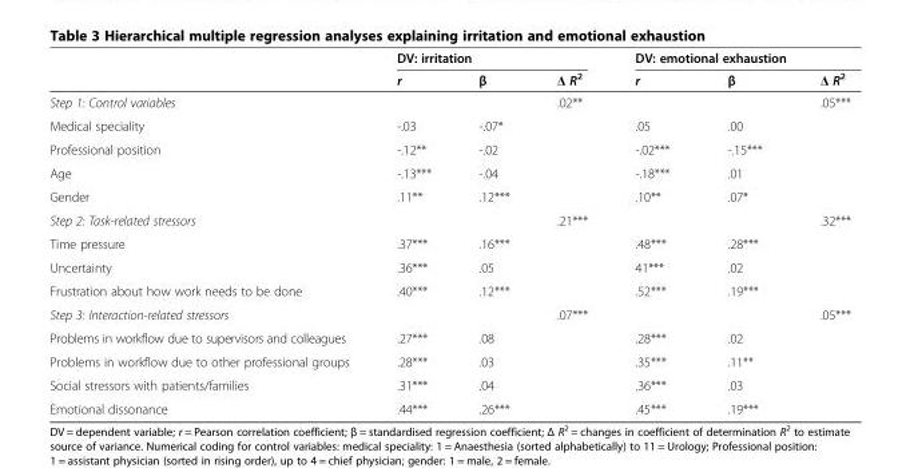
<table><thead><tr><td rowspan="2"></td><td colspan="3">DV: irritation</td><td colspan="3">DV: emotional exhaustion</td></tr><tr><td>r</td><td>β</td><td>Δ R<sup>2</sup></td><td>r</td><td>β</td><td>Δ R<sup>2</sup></td></tr></thead><tbody><tr><td>Step 1: Control variables</td><td></td><td></td><td>.02**</td><td></td><td></td><td>.05***</td></tr><tr><td>Medical speciality</td><td>-.03</td><td>-.07*</td><td></td><td>.05</td><td>.00</td><td></td></tr><tr><td>Professional position</td><td>-.12**</td><td>-.02</td><td></td><td>-.02***</td><td>-.15***</td><td></td></tr><tr><td>Age</td><td>-.13***</td><td>-.04</td><td></td><td>-.18***</td><td>.01</td><td></td></tr><tr><td>Gender</td><td>.11**</td><td>.12***</td><td></td><td>.10**</td><td>.07*</td><td></td></tr><tr><td>Step 2: Task-related stressors</td><td></td><td></td><td>.21***</td><td></td><td></td><td>.32***</td></tr><tr><td>Time pressure</td><td>.37***</td><td>.16***</td><td></td><td>.48***</td><td>.28***</td><td></td></tr><tr><td>Uncertainty</td><td>.36***</td><td>.05</td><td></td><td>41***</td><td>.02</td><td></td></tr><tr><td>Frustration about how work needs to be done</td><td>.40***</td><td>.12***</td><td></td><td>.52***</td><td>.19***</td><td></td></tr><tr><td>Step 3: Interaction-related stressors</td><td></td><td></td><td>.07***</td><td></td><td></td><td>.05***</td></tr><tr><td>Problems in workflow due to supervisors and colleagues</td><td>.27***</td><td>.08</td><td></td><td>.28***</td><td>.02</td><td></td></tr><tr><td>Problems in workflow due to other professional groups</td><td>.28***</td><td>.03</td><td></td><td>.35***</td><td>.11**</td><td></td></tr><tr><td>Social stressors with patients/families</td><td>.31***</td><td>.04</td><td></td><td>.36***</td><td>.03</td><td></td></tr><tr><td>Emotional dissonance</td><td>.44***</td><td>.26***</td><td></td><td>.45***</td><td>.19***</td><td></td></tr></tbody></table>